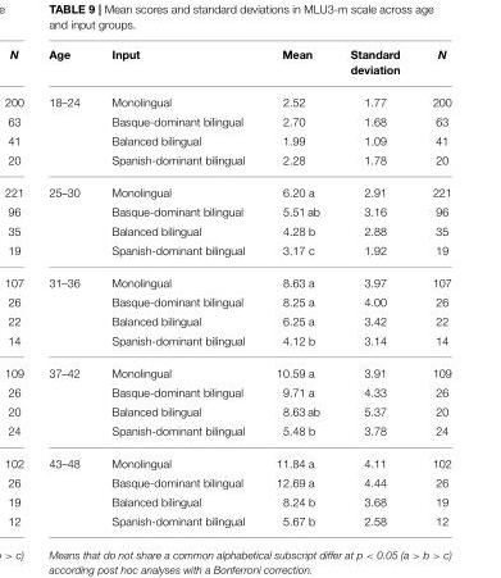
<table><thead><tr><td>Age</td><td>Input</td><td>Mean</td><td>Standard deviation</td><td>N</td></tr></thead><tbody><tr><td rowspan="4">18–24</td><td>Monolingual</td><td>2.52</td><td>1.77</td><td>200</td></tr><tr><td>Basque-dominant bilingual</td><td>2.70</td><td>1.68</td><td>63</td></tr><tr><td>Balanced bilingual</td><td>1.99</td><td>1.09</td><td>41</td></tr><tr><td>Spanish-dominant bilingual</td><td>2.28</td><td>1.78</td><td>20</td></tr><tr><td rowspan="4">25–30</td><td>Monolingual</td><td>6.20 a</td><td>2.91</td><td>221</td></tr><tr><td>Basque-dominant bilingual</td><td>5.51 ab</td><td>3.16</td><td>96</td></tr><tr><td>Balanced bilingual</td><td>4.28 b</td><td>2.88</td><td>35</td></tr><tr><td>Spanish-dominant bilingual</td><td>3.17 c</td><td>1.92</td><td>19</td></tr><tr><td rowspan="4">31–36</td><td>Monolingual</td><td>8.63 a</td><td>3.97</td><td>107</td></tr><tr><td>Basque-dominant bilingual</td><td>8.25 a</td><td>4.00</td><td>26</td></tr><tr><td>Balanced bilingual</td><td>6.25 a</td><td>3.42</td><td>22</td></tr><tr><td>Spanish-dominant bilingual</td><td>4.12 b</td><td>3.14</td><td>14</td></tr><tr><td rowspan="4">37–42</td><td>Monolingual</td><td>10.59 a</td><td>3.91</td><td>109</td></tr><tr><td>Basque-dominant bilingual</td><td>9.71 a</td><td>4.33</td><td>26</td></tr><tr><td>Balanced bilingual</td><td>8.63 ab</td><td>5.37</td><td>20</td></tr><tr><td>Spanish-dominant bilingual</td><td>5.48 b</td><td>3.78</td><td>24</td></tr><tr><td rowspan="4">43–48</td><td>Monolingual</td><td>11.84 a</td><td>4.11</td><td>102</td></tr><tr><td>Basque-dominant bilingual</td><td>12.69 a</td><td>4.44</td><td>26</td></tr><tr><td>Balanced bilingual</td><td>8.24 b</td><td>3.68</td><td>19</td></tr><tr><td>Spanish-dominant bilingual</td><td>5.67 b</td><td>2.58</td><td>12</td></tr></tbody></table>